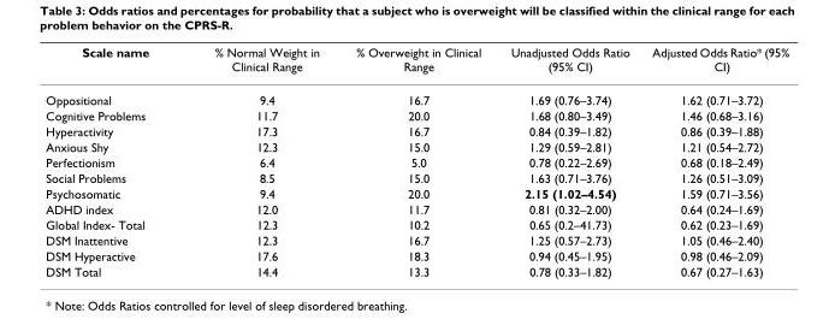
<table><thead><tr><td>Scale name</td><td>% Normal Weight in Clinical Range</td><td>% Overweight in Clinical Range</td><td>Unadjusted Odds Ratio (95% CI)</td><td>Adjusted Odds Ratio* (95% CI)</td></tr></thead><tbody><tr><td>Oppositional</td><td>9.4</td><td>16.7</td><td>1.69 (0.76–3.74)</td><td>1.62 (0.71–3.72)</td></tr><tr><td>Cognitive Problems</td><td>11.7</td><td>20.0</td><td>1.68 (0.80–3.49)</td><td>1.46 (0.68–3.16)</td></tr><tr><td>Hyperactivity</td><td>17.3</td><td>16.7</td><td>0.84 (0.39–1.82)</td><td>0.86 (0.39–1.88)</td></tr><tr><td>Anxious Shy</td><td>12.3</td><td>15.0</td><td>1.29 (0.59–2.81)</td><td>1.21 (0.54–2.72)</td></tr><tr><td>Perfectionism</td><td>6.4</td><td>5.0</td><td>0.78 (0.22–2.69)</td><td>0.68 (0.18–2.49)</td></tr><tr><td>Social Problems</td><td>8.5</td><td>15.0</td><td>1.63 (0.71–3.76)</td><td>1.26 (0.51–3.09)</td></tr><tr><td>Psychosomatic</td><td>9.4</td><td>20.0</td><td>2.15 (1.02–4.54)</td><td>1.59 (0.71–3.56)</td></tr><tr><td>ADHD index</td><td>12.0</td><td>11.7</td><td>0.81 (0.32–2.00)</td><td>0.64 (0.24–1.69)</td></tr><tr><td>Global Index- Total</td><td>12.3</td><td>10.2</td><td>0.65 (0.2–41.73)</td><td>0.62 (0.23–1.69)</td></tr><tr><td>DSM Inattentive</td><td>12.3</td><td>16.7</td><td>1.25 (0.57–2.73)</td><td>1.05 (0.46–2.40)</td></tr><tr><td>DSM Hyperactive</td><td>17.6</td><td>18.3</td><td>0.94 (0.45–1.95)</td><td>0.98 (0.46–2.09)</td></tr><tr><td>DSM Total</td><td>14.4</td><td>13.3</td><td>0.78 (0.33–1.82)</td><td>0.67 (0.27–1.63)</td></tr></tbody></table>